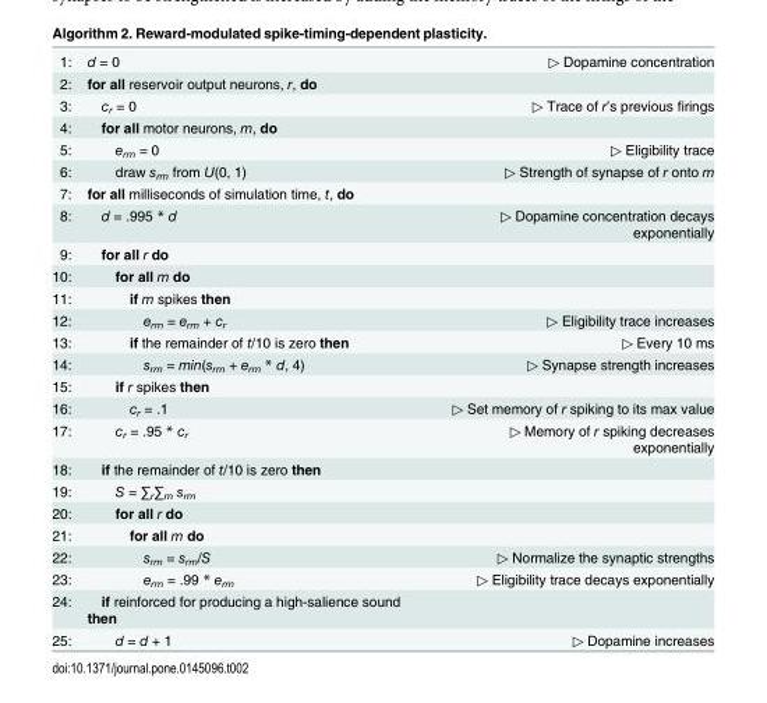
<table><tbody><tr><td>1:</td><td>d = 0</td><td>▷ Dopamine concentration</td></tr><tr><td>2:</td><td>for all reservoir output neurons, r, do</td><td></td></tr><tr><td>3:</td><td>c<sub>r</sub> = 0</td><td>▷ Trace of r’s previous firings</td></tr><tr><td>4:</td><td>for all motor neurons, m, do</td><td></td></tr><tr><td>5:</td><td>e<sub>rm</sub> = 0</td><td>▷ Eligibility trace</td></tr><tr><td>6:</td><td>draw s<sub>rm</sub> from U(0, 1)</td><td>▷ Strength of synapse of r onto m</td></tr><tr><td>7:</td><td>for all milliseconds of simulation time, t, do</td><td></td></tr><tr><td>8:</td><td>d = .995 * d</td><td>▷ Dopamine concentration decays exponentially</td></tr><tr><td>9:</td><td>for all r do</td><td></td></tr><tr><td>10:</td><td>for all m do</td><td></td></tr><tr><td>11:</td><td>if m spikes then</td><td></td></tr><tr><td>12:</td><td>e<sub>rm</sub> = e<sub>rm</sub> + c<sub>r</sub></td><td>▷ Eligibility trace increases</td></tr><tr><td>13:</td><td>if the remainder of t/10 is zero then</td><td>▷ Every 10 ms</td></tr><tr><td>14:</td><td>s<sub>rm</sub> = min(s<sub>rm</sub> + e<sub>rm</sub> * d, 4)</td><td>▷ Synapse strength increases</td></tr><tr><td>15:</td><td>if r spikes then</td><td></td></tr><tr><td>16:</td><td>c<sub>r</sub> = .1</td><td>▷ Set memory of r spiking to its max value</td></tr><tr><td>17:</td><td>c<sub>r</sub> = .95 * c<sub>r</sub></td><td>▷ Memory of r spiking decreases exponentially</td></tr><tr><td>18:</td><td>if the remainder of t/10 is zero then</td><td></td></tr><tr><td>19:</td><td>S = ∑<sub>r</sub>∑<sub>m</sub> s<sub>rm</sub></td><td></td></tr><tr><td>20:</td><td>for all r do</td><td></td></tr><tr><td>21:</td><td>for all m do</td><td></td></tr><tr><td>22:</td><td>s<sub>rm</sub> = s<sub>rm</sub>/S</td><td>▷ Normalize the synaptic strengths</td></tr><tr><td>23:</td><td>e<sub>rm</sub> = .99 * e<sub>rm</sub></td><td>▷ Eligibility trace decays exponentially</td></tr><tr><td>24:</td><td>if reinforced for producing a high-salience sound then</td><td></td></tr><tr><td>25:</td><td>d = d + 1</td><td>▷ Dopamine increases</td></tr></tbody></table>